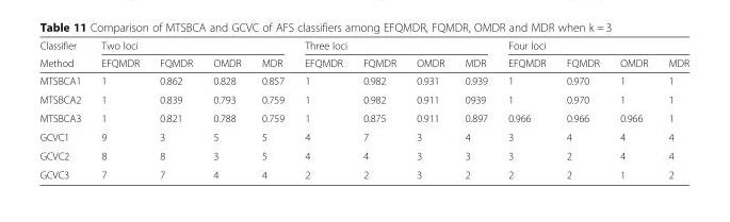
<table><thead><tr><td rowspan="2">Classifier Method</td><td colspan="4">Two loci</td><td colspan="4">Three loci</td><td colspan="4">Four loci</td></tr><tr><td>EFQMDR</td><td>FQMDR</td><td>OMDR</td><td>MDR</td><td>EFQMDR</td><td>FQMDR</td><td>OMDR</td><td>MDR</td><td>EFQMDR</td><td>FQMDR</td><td>OMDR</td><td>MDR</td></tr></thead><tbody><tr><td>MTSBCA1</td><td>1</td><td>0.862</td><td>0.828</td><td>0.857</td><td>1</td><td>0.982</td><td>0.931</td><td>0.939</td><td>1</td><td>0.970</td><td>1</td><td>1</td></tr><tr><td>MTSBCA2</td><td>1</td><td>0.839</td><td>0.793</td><td>0.759</td><td>1</td><td>0.982</td><td>0.911</td><td>0939</td><td>1</td><td>0.970</td><td>1</td><td>1</td></tr><tr><td>MTSBCA3</td><td>1</td><td>0.821</td><td>0.788</td><td>0.759</td><td>1</td><td>0.875</td><td>0.911</td><td>0.897</td><td>0.966</td><td>0.966</td><td>0.966</td><td>1</td></tr><tr><td>GCVC1</td><td>9</td><td>3</td><td>5</td><td>5</td><td>4</td><td>7</td><td>3</td><td>4</td><td>3</td><td>4</td><td>4</td><td>4</td></tr><tr><td>GCVC2</td><td>8</td><td>8</td><td>3</td><td>5</td><td>4</td><td>4</td><td>3</td><td>3</td><td>3</td><td>2</td><td>4</td><td>4</td></tr><tr><td>GCVC3</td><td>7</td><td>7</td><td>4</td><td>4</td><td>2</td><td>2</td><td>3</td><td>2</td><td>2</td><td>2</td><td>1</td><td>2</td></tr></tbody></table>